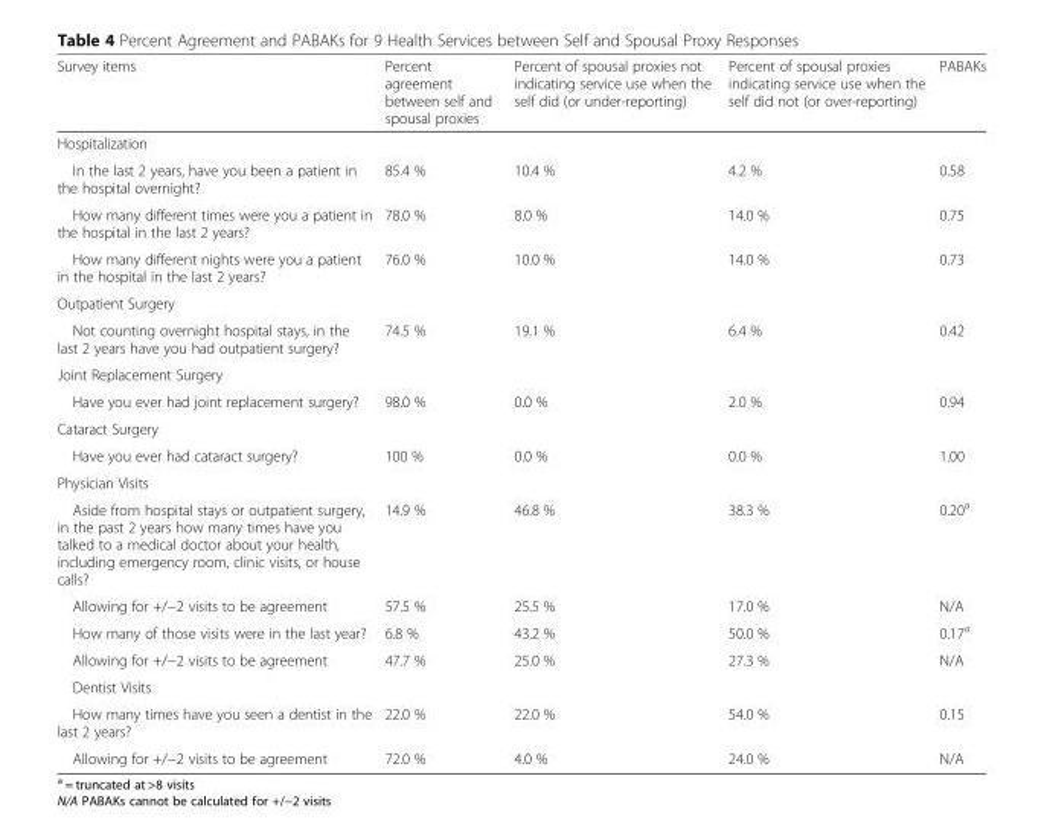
<table><thead><tr><td>Survey items</td><td>Percent agreement between self and spousal proxies</td><td>Percent of spousal proxies not indicating service use when the self did (or under-reporting)</td><td>Percent of spousal proxies indicating service use when the self did not (or over-reporting)</td><td>PABAKs</td></tr></thead><tbody><tr><td colspan="5">Hospitalization</td></tr><tr><td>In the last 2 years, have you been a patient in the hospital overnight?</td><td>85.4 %</td><td>10.4 %</td><td>4.2 %</td><td>0.58</td></tr><tr><td>How many different times were you a patient in the hospital in the last 2 years?</td><td>78.0 %</td><td>8.0 %</td><td>14.0 %</td><td>0.75</td></tr><tr><td>How many different nights were you a patient in the hospital in the last 2 years?</td><td>76.0 %</td><td>10.0 %</td><td>14.0 %</td><td>0.73</td></tr><tr><td colspan="5">Outpatient Surgery</td></tr><tr><td>Not counting overnight hospital stays, in the last 2 years have you had outpatient surgery?</td><td>74.5 %</td><td>19.1 %</td><td>6.4 %</td><td>0.42</td></tr><tr><td colspan="5">Joint Replacement Surgery</td></tr><tr><td>Have you ever had joint replacement surgery?</td><td>98.0 %</td><td>0.0 %</td><td>2.0 %</td><td>0.94</td></tr><tr><td colspan="5">Cataract Surgery</td></tr><tr><td>Have you ever had cataract surgery?</td><td>100 %</td><td>0.0 %</td><td>0.0 %</td><td>1.00</td></tr><tr><td colspan="5">Physician Visits</td></tr><tr><td>Aside from hospital stays or outpatient surgery, in the past 2 years how many times have you talked to a medical doctor about your health, including emergency room, clinic visits, or house calls?</td><td>14.9 %</td><td>46.8 %</td><td>38.3 %</td><td>0.20<sup>a</sup></td></tr><tr><td>Allowing for +/−2 visits to be agreement</td><td>57.5 %</td><td>25.5 %</td><td>17.0 %</td><td>N/A</td></tr><tr><td>How many of those visits were in the last year?</td><td>6.8 %</td><td>43.2 %</td><td>50.0 %</td><td>0.17<sup>a</sup></td></tr><tr><td>Allowing for +/−2 visits to be agreement</td><td>47.7 %</td><td>25.0 %</td><td>27.3 %</td><td>N/A</td></tr><tr><td colspan="5">Dentist Visits</td></tr><tr><td>How many times have you seen a dentist in the last 2 years?</td><td>22.0 %</td><td>22.0 %</td><td>54.0 %</td><td>0.15</td></tr><tr><td>Allowing for +/−2 visits to be agreement</td><td>72.0 %</td><td>4.0 %</td><td>24.0 %</td><td>N/A</td></tr></tbody></table>